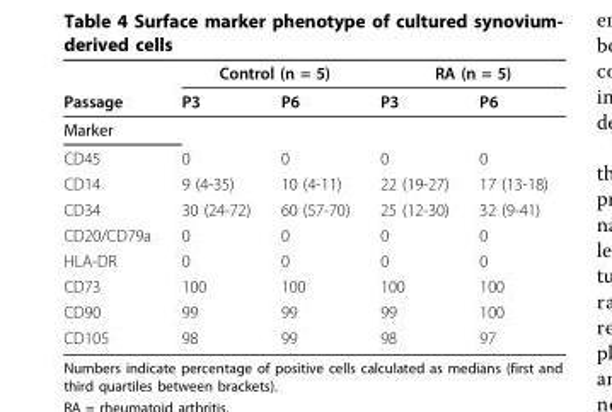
<table><thead><tr><td rowspan="2">Passage</td><td colspan="2">Control (n = 5)</td><td colspan="2">RA (n = 5)</td></tr><tr><td>P3</td><td>P6</td><td>P3</td><td>P6</td></tr></thead><tbody><tr><td colspan="5">Marker</td></tr><tr><td>CD45</td><td>0</td><td>0</td><td>0</td><td>0</td></tr><tr><td>CD14</td><td>9 (4-35)</td><td>10 (4-11)</td><td>22 (19-27)</td><td>17 (13-18)</td></tr><tr><td>CD34</td><td>30 (24-72)</td><td>60 (57-70)</td><td>25 (12-30)</td><td>32 (9-41)</td></tr><tr><td>CD20/CD79a</td><td>0</td><td>0</td><td>0</td><td>0</td></tr><tr><td>HLA-DR</td><td>0</td><td>0</td><td>0</td><td>0</td></tr><tr><td>CD73</td><td>100</td><td>100</td><td>100</td><td>100</td></tr><tr><td>CD90</td><td>99</td><td>99</td><td>99</td><td>100</td></tr><tr><td>CD105</td><td>98</td><td>99</td><td>98</td><td>97</td></tr></tbody></table>